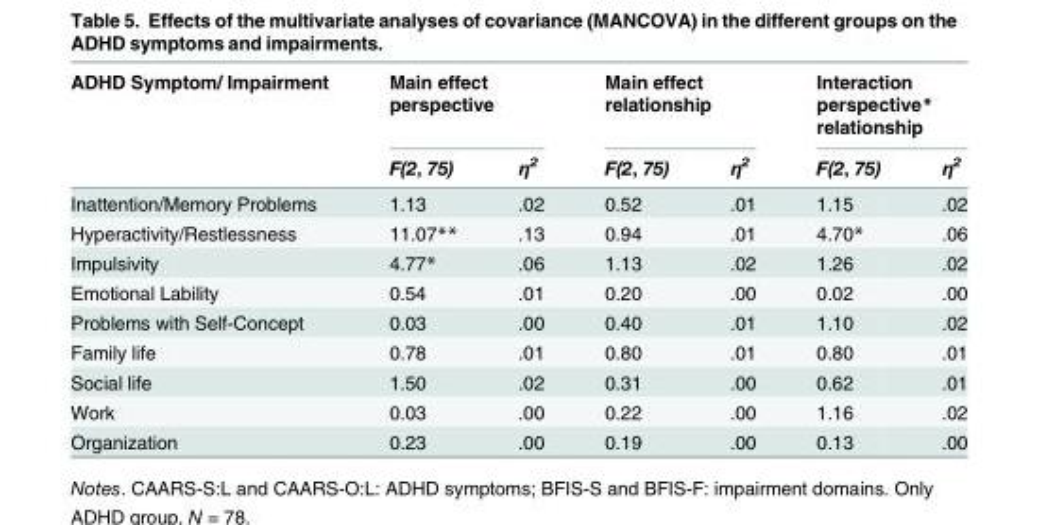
<table><thead><tr><td rowspan="2">ADHD Symptom/ Impairment</td><td colspan="2">Main effect perspective</td><td colspan="2">Main effect relationship</td><td colspan="2">Interaction perspective* relationship</td></tr><tr><td>F(2, 75)</td><td>η<sup>2</sup></td><td>F(2, 75)</td><td>η<sup>2</sup></td><td>F(2, 75)</td><td>η<sup>2</sup></td></tr></thead><tbody><tr><td>Inattention/Memory Problems</td><td>1.13</td><td>.02</td><td>0.52</td><td>.01</td><td>1.15</td><td>.02</td></tr><tr><td>Hyperactivity/Restlessness</td><td>11.07**</td><td>.13</td><td>0.94</td><td>.01</td><td>4.70*</td><td>.06</td></tr><tr><td>Impulsivity</td><td>4.77*</td><td>.06</td><td>1.13</td><td>.02</td><td>1.26</td><td>.02</td></tr><tr><td>Emotional Lability</td><td>0.54</td><td>.01</td><td>0.20</td><td>.00</td><td>0.02</td><td>.00</td></tr><tr><td>Problems with Self-Concept</td><td>0.03</td><td>.00</td><td>0.40</td><td>.01</td><td>1.10</td><td>.02</td></tr><tr><td>Family life</td><td>0.78</td><td>.01</td><td>0.80</td><td>.01</td><td>0.80</td><td>.01</td></tr><tr><td>Social life</td><td>1.50</td><td>.02</td><td>0.31</td><td>.00</td><td>0.62</td><td>.01</td></tr><tr><td>Work</td><td>0.03</td><td>.00</td><td>0.22</td><td>.00</td><td>1.16</td><td>.02</td></tr><tr><td>Organization</td><td>0.23</td><td>.00</td><td>0.19</td><td>.00</td><td>0.13</td><td>.00</td></tr></tbody></table>